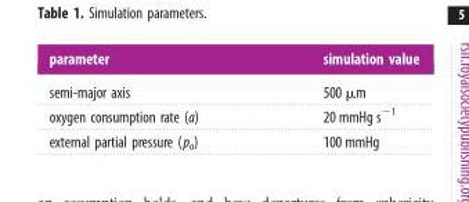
<table><thead><tr><td>parameter</td><td>simulation value</td></tr></thead><tbody><tr><td>semi-major axis</td><td>500 μm</td></tr><tr><td>oxygen consumption rate (a)</td><td>20 mmHg s<sup>−1</sup></td></tr><tr><td>external partial pressure (p<sub>o</sub>)</td><td>100 mmHg</td></tr></tbody></table>